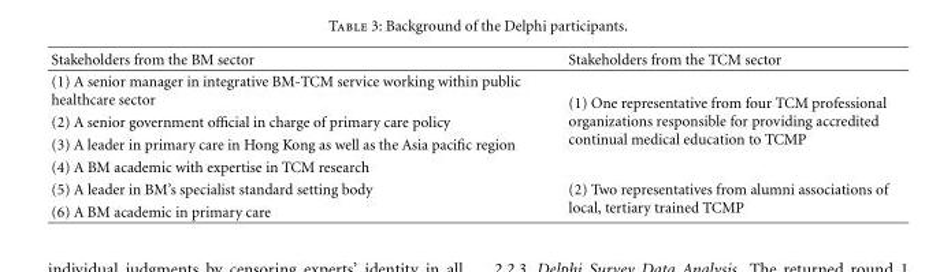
<table><thead><tr><td>Stakeholders from the BM sector</td><td>Stakeholders from the TCM sector</td></tr></thead><tbody><tr><td>(1) A senior manager in integrative BM-TCM service working within public healthcare sector</td><td rowspan="4">(1) One representative from four TCM professional organizations responsible for providing accredited continual medical education to TCMP</td></tr><tr><td>(2) A senior government official in charge of primary care policy</td></tr><tr><td>(3) A leader in primary care in Hong Kong as well as the Asia pacific region</td></tr><tr><td>(4) A BM academic with expertise in TCM research</td></tr><tr><td>(5) A leader in BM’s specialist standard setting body</td><td rowspan="2">(2) Two representatives from alumni associations of local, tertiary trained TCMP</td></tr><tr><td>(6) A BM academic in primary care</td></tr></tbody></table>